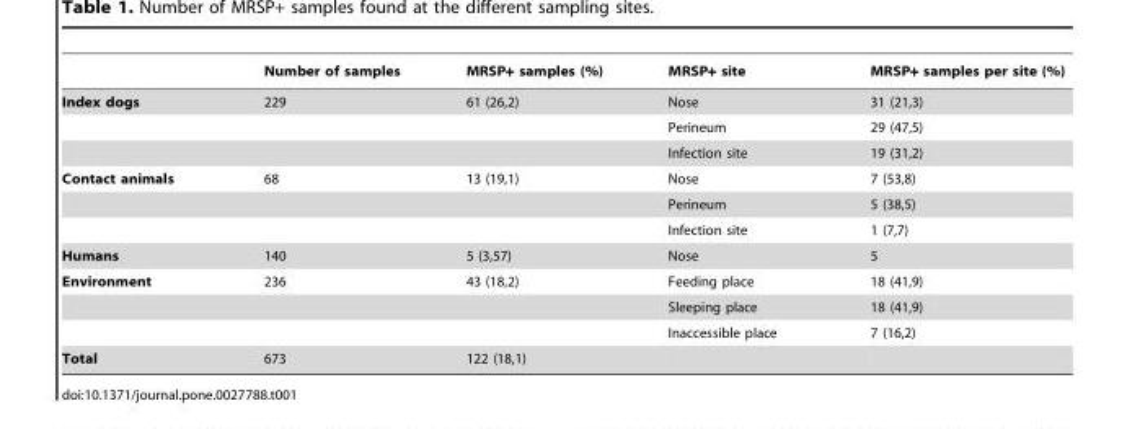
<table><thead><tr><td></td><td>Number of samples</td><td>MRSP+ samples (%)</td><td>MRSP+ site</td><td>MRSP+ samples per site (%)</td></tr></thead><tbody><tr><td rowspan="3">Index dogs</td><td>229</td><td>61 (26,2)</td><td>Nose</td><td>31 (21,3)</td></tr><tr><td></td><td></td><td>Perineum</td><td>29 (47,5)</td></tr><tr><td></td><td></td><td>Infection site</td><td>19 (31,2)</td></tr><tr><td rowspan="3">Contact animals</td><td>68</td><td>13 (19,1)</td><td>Nose</td><td>7 (53,8)</td></tr><tr><td></td><td></td><td>Perineum</td><td>5 (38,5)</td></tr><tr><td></td><td></td><td>Infection site</td><td>1 (7,7)</td></tr><tr><td>Humans</td><td>140</td><td>5 (3,57)</td><td>Nose</td><td>5</td></tr><tr><td rowspan="3">Environment</td><td>236</td><td>43 (18,2)</td><td>Feeding place</td><td>18 (41,9)</td></tr><tr><td></td><td></td><td>Sleeping place</td><td>18 (41,9)</td></tr><tr><td></td><td></td><td>Inaccessible place</td><td>7 (16,2)</td></tr><tr><td>Total</td><td>673</td><td>122 (18,1)</td><td></td><td></td></tr></tbody></table>